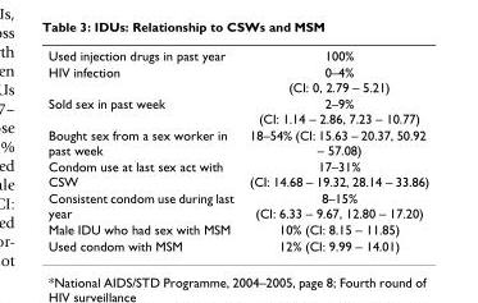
<table><tbody><tr><td>Used injection drugs in past year</td><td>100%</td></tr><tr><td>HIV infection</td><td>0–4% (CI: 0, 2.79 – 5.21)</td></tr><tr><td>Sold sex in past week</td><td>2–9% (CI: 1.14 – 2.86, 7.23 – 10.77)</td></tr><tr><td>Bought sex from a sex worker in past week</td><td>18–54% (CI: 15.63 – 20.37, 50.92 – 57.08)</td></tr><tr><td>Condom use at last sex act with CSW</td><td>17–31% (CI: 14.68 – 19.32, 28.14 – 33.86)</td></tr><tr><td>Consistent condom use during last year</td><td>8–15% (CI: 6.33 – 9.67, 12.80 – 17.20)</td></tr><tr><td>Male IDU who had sex with MSM</td><td>10% (CI: 8.15 – 11.85)</td></tr><tr><td>Used condom with MSM</td><td>12% (CI: 9.99 – 14.01)</td></tr></tbody></table>